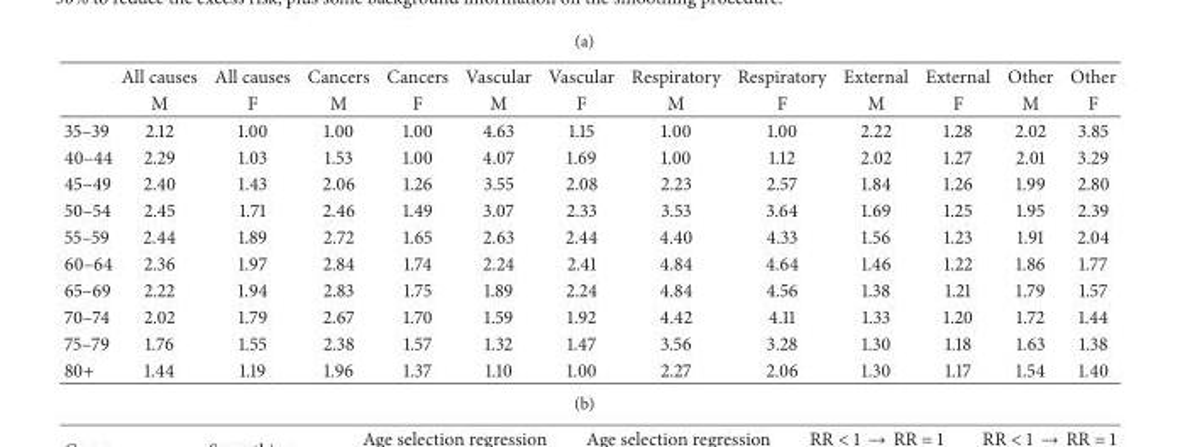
<table><thead><tr><td rowspan="2"></td><td rowspan="2">All causes M</td><td rowspan="2">All causes F</td><td rowspan="2">Cancers M</td><td rowspan="2">Cancers F</td><td rowspan="2">Vascular M</td><td rowspan="2">Vascular F</td><td rowspan="2">Respiratory M</td><td rowspan="2">Respiratory F</td><td rowspan="2">External M</td><td rowspan="2">External F</td><td rowspan="2">Other M</td><td rowspan="2">Other F</td></tr><tr></tr></thead><tbody><tr><td>35–39</td><td>2.12</td><td>1.00</td><td>1.00</td><td>1.00</td><td>4.63</td><td>1.15</td><td>1.00</td><td>1.00</td><td>2.22</td><td>1.28</td><td>2.02</td><td>3.85</td></tr><tr><td>40–44</td><td>2.29</td><td>1.03</td><td>1.53</td><td>1.00</td><td>4.07</td><td>1.69</td><td>1.00</td><td>1.12</td><td>2.02</td><td>1.27</td><td>2.01</td><td>3.29</td></tr><tr><td>45–49</td><td>2.40</td><td>1.43</td><td>2.06</td><td>1.26</td><td>3.55</td><td>2.08</td><td>2.23</td><td>2.57</td><td>1.84</td><td>1.26</td><td>1.99</td><td>2.80</td></tr><tr><td>50–54</td><td>2.45</td><td>1.71</td><td>2.46</td><td>1.49</td><td>3.07</td><td>2.33</td><td>3.53</td><td>3.64</td><td>1.69</td><td>1.25</td><td>1.95</td><td>2.39</td></tr><tr><td>55–59</td><td>2.44</td><td>1.89</td><td>2.72</td><td>1.65</td><td>2.63</td><td>2.44</td><td>4.40</td><td>4.33</td><td>1.56</td><td>1.23</td><td>1.91</td><td>2.04</td></tr><tr><td>60–64</td><td>2.36</td><td>1.97</td><td>2.84</td><td>1.74</td><td>2.24</td><td>2.41</td><td>4.84</td><td>4.64</td><td>1.46</td><td>1.22</td><td>1.86</td><td>1.77</td></tr><tr><td>65–69</td><td>2.22</td><td>1.94</td><td>2.83</td><td>1.75</td><td>1.89</td><td>2.24</td><td>4.84</td><td>4.56</td><td>1.38</td><td>1.21</td><td>1.79</td><td>1.57</td></tr><tr><td>70–74</td><td>2.02</td><td>1.79</td><td>2.67</td><td>1.70</td><td>1.59</td><td>1.92</td><td>4.42</td><td>4.11</td><td>1.33</td><td>1.20</td><td>1.72</td><td>1.44</td></tr><tr><td>75–79</td><td>1.76</td><td>1.55</td><td>2.38</td><td>1.57</td><td>1.32</td><td>1.47</td><td>3.56</td><td>3.28</td><td>1.30</td><td>1.18</td><td>1.63</td><td>1.38</td></tr><tr><td>80+</td><td>1.44</td><td>1.19</td><td>1.96</td><td>1.37</td><td>1.10</td><td>1.00</td><td>2.27</td><td>2.06</td><td>1.30</td><td>1.17</td><td>1.54</td><td>1.40</td></tr></tbody></table>